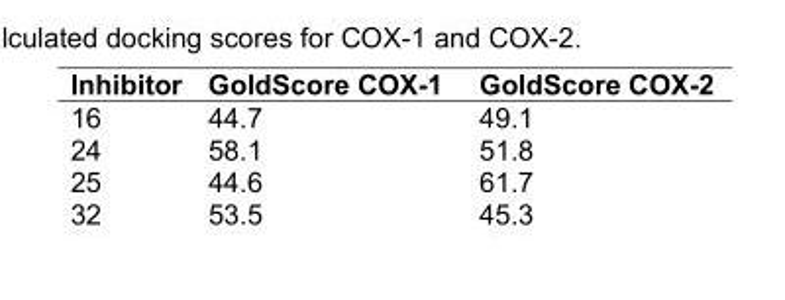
<table><thead><tr><td>Inhibitor</td><td>GoldScore COX-1</td><td>GoldScore COX-2</td></tr></thead><tbody><tr><td>16</td><td>44.7</td><td>49.1</td></tr><tr><td>24</td><td>58.1</td><td>51.8</td></tr><tr><td>25</td><td>44.6</td><td>61.7</td></tr><tr><td>32</td><td>53.5</td><td>45.3</td></tr></tbody></table>